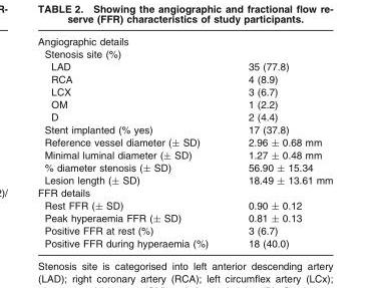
<table><tbody><tr><td colspan="2">Angiographic details</td></tr><tr><td colspan="2">Stenosis site (%)</td></tr><tr><td>LAD</td><td>35 (77.8)</td></tr><tr><td>RCA</td><td>4 (8.9)</td></tr><tr><td>LCX</td><td>3 (6.7)</td></tr><tr><td>OM</td><td>1 (2.2)</td></tr><tr><td>D</td><td>2 (4.4)</td></tr><tr><td>Stent implanted (% yes)</td><td>17 (37.8)</td></tr><tr><td>Reference vessel diameter (± SD)</td><td>2.96 ± 0.68 mm</td></tr><tr><td>Minimal luminal diameter (± SD)</td><td>1.27 ± 0.48 mm</td></tr><tr><td>% diameter stenosis (± SD)</td><td>56.90 ± 15.34</td></tr><tr><td>Lesion length (± SD)</td><td>18.49 ± 13.61 mm</td></tr><tr><td colspan="2">FFR details</td></tr><tr><td>Rest FFR (± SD)</td><td>0.90 ± 0.12</td></tr><tr><td>Peak hyperaemia FFR (± SD)</td><td>0.81 ± 0.13</td></tr><tr><td>Positive FFR at rest (%)</td><td>3 (6.7)</td></tr><tr><td>Positive FFR during hyperaemia (%)</td><td>18 (40.0)</td></tr></tbody></table>